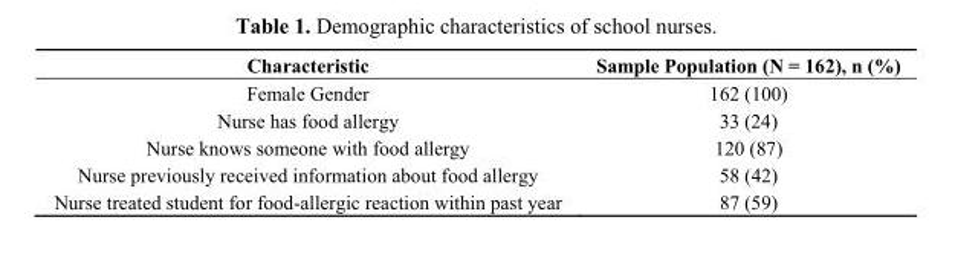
<table><thead><tr><td>Characteristic</td><td>Sample Population (N = 162), n (%)</td></tr></thead><tbody><tr><td>Female Gender</td><td>162 (100)</td></tr><tr><td>Nurse has food allergy</td><td>33 (24)</td></tr><tr><td>Nurse knows someone with food allergy</td><td>120 (87)</td></tr><tr><td>Nurse previously received information about food allergy</td><td>58 (42)</td></tr><tr><td>Nurse treated student for food-allergic reaction within past year</td><td>87 (59)</td></tr></tbody></table>